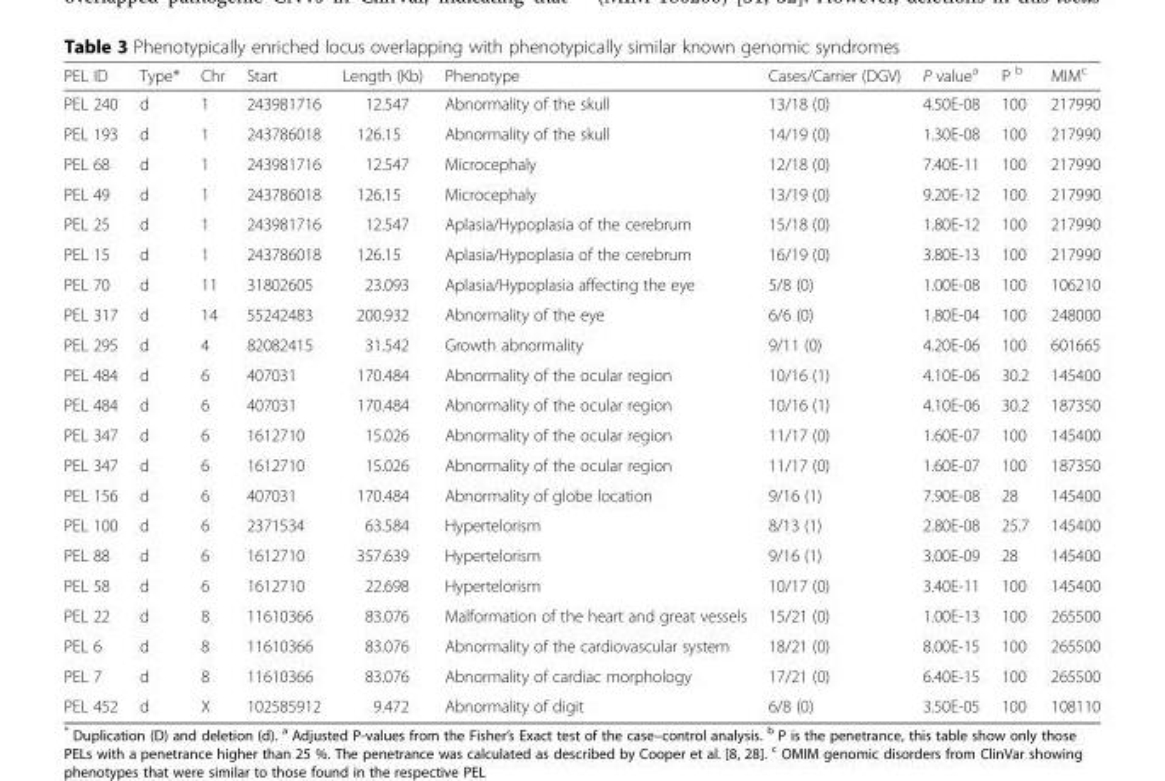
<table><thead><tr><td>PEL ID</td><td>Type*</td><td>Chr</td><td>Start</td><td>Length (Kb)</td><td>Phenotype</td><td>Cases/Carrier (DGV)</td><td>P value<sup>a</sup></td><td>P <sup>b</sup></td><td>MIM<sup>c</sup></td></tr></thead><tbody><tr><td>PEL 240</td><td>d</td><td>1</td><td>243981716</td><td>12.547</td><td>Abnormality of the skull</td><td>13/18 (0)</td><td>4.50E-08</td><td>100</td><td>217990</td></tr><tr><td>PEL 193</td><td>d</td><td>1</td><td>243786018</td><td>126.15</td><td>Abnormality of the skull</td><td>14/19 (0)</td><td>1.30E-08</td><td>100</td><td>217990</td></tr><tr><td>PEL 68</td><td>d</td><td>1</td><td>243981716</td><td>12.547</td><td>Microcephaly</td><td>12/18 (0)</td><td>7.40E-11</td><td>100</td><td>217990</td></tr><tr><td>PEL 49</td><td>d</td><td>1</td><td>243786018</td><td>126.15</td><td>Microcephaly</td><td>13/19 (0)</td><td>9.20E-12</td><td>100</td><td>217990</td></tr><tr><td>PEL 25</td><td>d</td><td>1</td><td>243981716</td><td>12.547</td><td>Aplasia/Hypoplasia of the cerebrum</td><td>15/18 (0)</td><td>1.80E-12</td><td>100</td><td>217990</td></tr><tr><td>PEL 15</td><td>d</td><td>1</td><td>243786018</td><td>126.15</td><td>Aplasia/Hypoplasia of the cerebrum</td><td>16/19 (0)</td><td>3.80E-13</td><td>100</td><td>217990</td></tr><tr><td>PEL 70</td><td>d</td><td>11</td><td>31802605</td><td>23.093</td><td>Aplasia/Hypoplasia affecting the eye</td><td>5/8 (0)</td><td>1.00E-08</td><td>100</td><td>106210</td></tr><tr><td>PEL 317</td><td>d</td><td>14</td><td>55242483</td><td>200.932</td><td>Abnormality of the eye</td><td>6/6 (0)</td><td>1.80E-04</td><td>100</td><td>248000</td></tr><tr><td>PEL 295</td><td>d</td><td>4</td><td>82082415</td><td>31.542</td><td>Growth abnormality</td><td>9/11 (0)</td><td>4.20E-06</td><td>100</td><td>601665</td></tr><tr><td>PEL 484</td><td>d</td><td>6</td><td>407031</td><td>170.484</td><td>Abnormality of the ocular region</td><td>10/16 (1)</td><td>4.10E-06</td><td>30.2</td><td>145400</td></tr><tr><td>PEL 484</td><td>d</td><td>6</td><td>407031</td><td>170.484</td><td>Abnormality of the ocular region</td><td>10/16 (1)</td><td>4.10E-06</td><td>30.2</td><td>187350</td></tr><tr><td>PEL 347</td><td>d</td><td>6</td><td>1612710</td><td>15.026</td><td>Abnormality of the ocular region</td><td>11/17 (0)</td><td>1.60E-07</td><td>100</td><td>145400</td></tr><tr><td>PEL 347</td><td>d</td><td>6</td><td>1612710</td><td>15.026</td><td>Abnormality of the ocular region</td><td>11/17 (0)</td><td>1.60E-07</td><td>100</td><td>187350</td></tr><tr><td>PEL 156</td><td>d</td><td>6</td><td>407031</td><td>170.484</td><td>Abnormality of globe location</td><td>9/16 (1)</td><td>7.90E-08</td><td>28</td><td>145400</td></tr><tr><td>PEL 100</td><td>d</td><td>6</td><td>2371534</td><td>63.584</td><td>Hypertelorism</td><td>8/13 (1)</td><td>2.80E-08</td><td>25.7</td><td>145400</td></tr><tr><td>PEL 88</td><td>d</td><td>6</td><td>1612710</td><td>357.639</td><td>Hypertelorism</td><td>9/16 (1)</td><td>3.00E-09</td><td>28</td><td>145400</td></tr><tr><td>PEL 58</td><td>d</td><td>6</td><td>1612710</td><td>22.698</td><td>Hypertelorism</td><td>10/17 (0)</td><td>3.40E-11</td><td>100</td><td>145400</td></tr><tr><td>PEL 22</td><td>d</td><td>8</td><td>11610366</td><td>83.076</td><td>Malformation of the heart and great vessels</td><td>15/21 (0)</td><td>1.00E-13</td><td>100</td><td>265500</td></tr><tr><td>PEL 6</td><td>d</td><td>8</td><td>11610366</td><td>83.076</td><td>Abnormality of the cardiovascular system</td><td>18/21 (0)</td><td>8.00E-15</td><td>100</td><td>265500</td></tr><tr><td>PEL 7</td><td>d</td><td>8</td><td>11610366</td><td>83.076</td><td>Abnormality of cardiac morphology</td><td>17/21 (0)</td><td>6.40E-15</td><td>100</td><td>265500</td></tr><tr><td>PEL 452</td><td>d</td><td>X</td><td>102585912</td><td>9.472</td><td>Abnormality of digit</td><td>6/8 (0)</td><td>3.50E-05</td><td>100</td><td>108110</td></tr></tbody></table>